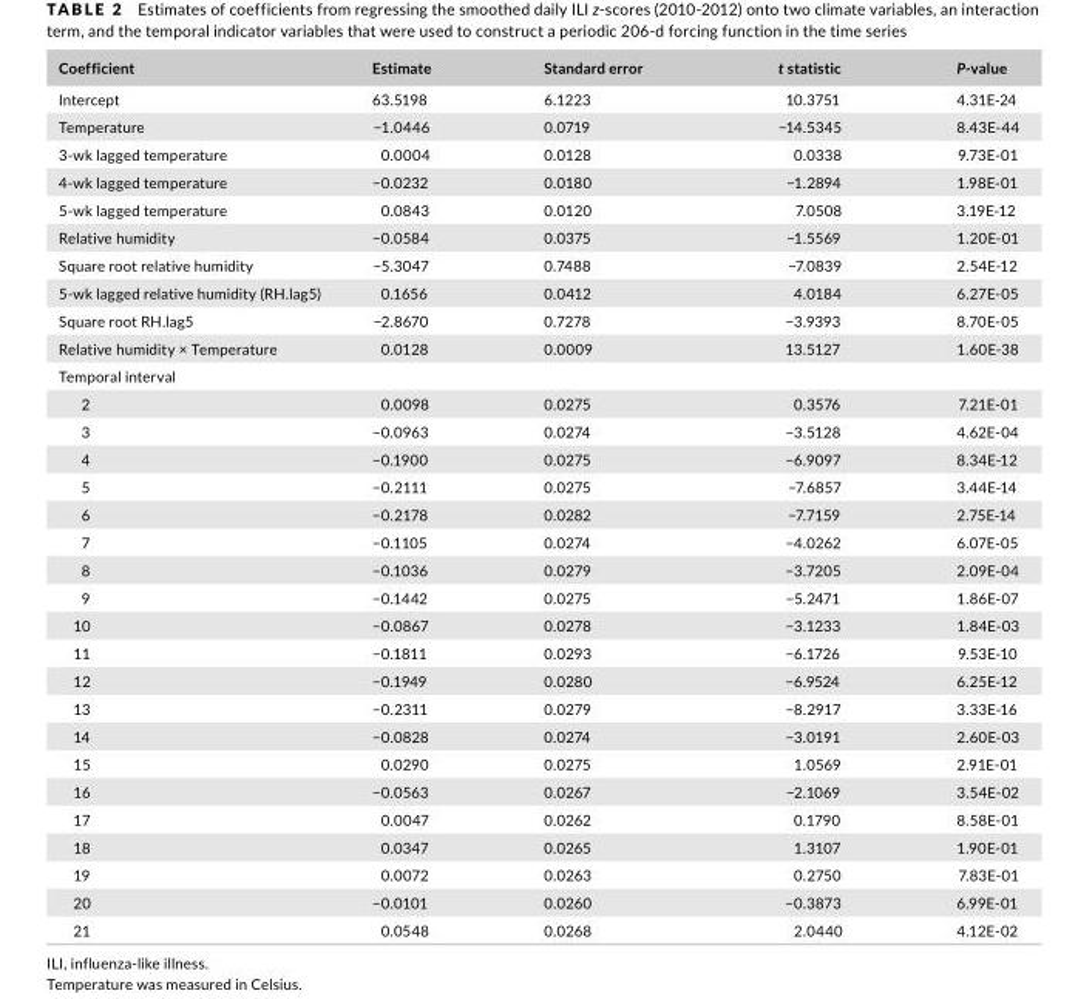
<table><thead><tr><td>Coefficient</td><td>Estimate</td><td>Standard error</td><td>t statistic</td><td>P- value</td></tr></thead><tbody><tr><td>Intercept</td><td>63.5198</td><td>6.1223</td><td>10.3751</td><td>4.31E- 24</td></tr><tr><td>Temperature</td><td>−1.0446</td><td>0.0719</td><td>−14.5345</td><td>8.43E- 44</td></tr><tr><td>3- wk lagged temperature</td><td>0.0004</td><td>0.0128</td><td>0.0338</td><td>9.73E- 01</td></tr><tr><td>4- wk lagged temperature</td><td>−0.0232</td><td>0.0180</td><td>−1.2894</td><td>1.98E- 01</td></tr><tr><td>5- wk lagged temperature</td><td>0.0843</td><td>0.0120</td><td>7.0508</td><td>3.19E- 12</td></tr><tr><td>Relative humidity</td><td>−0.0584</td><td>0.0375</td><td>−1.5569</td><td>1.20E- 01</td></tr><tr><td>Square root relative humidity</td><td>−5.3047</td><td>0.7488</td><td>−7.0839</td><td>2.54E- 12</td></tr><tr><td>5- wk lagged relative humidity (RH.lag5)</td><td>0.1656</td><td>0.0412</td><td>4.0184</td><td>6.27E- 05</td></tr><tr><td>Square root RH.lag5</td><td>−2.8670</td><td>0.7278</td><td>−3.9393</td><td>8.70E- 05</td></tr><tr><td>Relative humidity × Temperature</td><td>0.0128</td><td>0.0009</td><td>13.5127</td><td>1.60E- 38</td></tr><tr><td colspan="5">Temporal interval</td></tr><tr><td>2</td><td>0.0098</td><td>0.0275</td><td>0.3576</td><td>7.21E- 01</td></tr><tr><td>3</td><td>−0.0963</td><td>0.0274</td><td>−3.5128</td><td>4.62E- 04</td></tr><tr><td>4</td><td>−0.1900</td><td>0.0275</td><td>−6.9097</td><td>8.34E- 12</td></tr><tr><td>5</td><td>−0.2111</td><td>0.0275</td><td>−7.6857</td><td>3.44E- 14</td></tr><tr><td>6</td><td>−0.2178</td><td>0.0282</td><td>−7.7159</td><td>2.75E- 14</td></tr><tr><td>7</td><td>−0.1105</td><td>0.0274</td><td>−4.0262</td><td>6.07E- 05</td></tr><tr><td>8</td><td>−0.1036</td><td>0.0279</td><td>−3.7205</td><td>2.09E- 04</td></tr><tr><td>9</td><td>−0.1442</td><td>0.0275</td><td>−5.2471</td><td>1.86E- 07</td></tr><tr><td>10</td><td>−0.0867</td><td>0.0278</td><td>−3.1233</td><td>1.84E- 03</td></tr><tr><td>11</td><td>−0.1811</td><td>0.0293</td><td>−6.1726</td><td>9.53E- 10</td></tr><tr><td>12</td><td>−0.1949</td><td>0.0280</td><td>−6.9524</td><td>6.25E- 12</td></tr><tr><td>13</td><td>−0.2311</td><td>0.0279</td><td>−8.2917</td><td>3.33E- 16</td></tr><tr><td>14</td><td>−0.0828</td><td>0.0274</td><td>−3.0191</td><td>2.60E- 03</td></tr><tr><td>15</td><td>0.0290</td><td>0.0275</td><td>1.0569</td><td>2.91E- 01</td></tr><tr><td>16</td><td>−0.0563</td><td>0.0267</td><td>−2.1069</td><td>3.54E- 02</td></tr><tr><td>17</td><td>0.0047</td><td>0.0262</td><td>0.1790</td><td>8.58E- 01</td></tr><tr><td>18</td><td>0.0347</td><td>0.0265</td><td>1.3107</td><td>1.90E- 01</td></tr><tr><td>19</td><td>0.0072</td><td>0.0263</td><td>0.2750</td><td>7.83E- 01</td></tr><tr><td>20</td><td>−0.0101</td><td>0.0260</td><td>−0.3873</td><td>6.99E- 01</td></tr><tr><td>21</td><td>0.0548</td><td>0.0268</td><td>2.0440</td><td>4.12E- 02</td></tr></tbody></table>